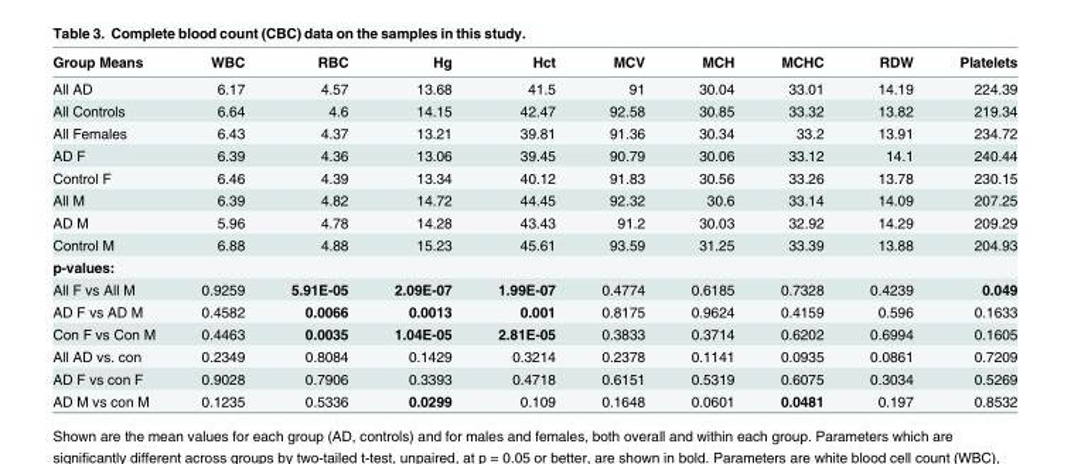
<table><thead><tr><td>Group Means</td><td>WBC</td><td>RBC</td><td>Hg</td><td>Hct</td><td>MCV</td><td>MCH</td><td>MCHC</td><td>RDW</td><td>Platelets</td></tr></thead><tbody><tr><td>All AD</td><td>6.17</td><td>4.57</td><td>13.68</td><td>41.5</td><td>91</td><td>30.04</td><td>33.01</td><td>14.19</td><td>224.39</td></tr><tr><td>All Controls</td><td>6.64</td><td>4.6</td><td>14.15</td><td>42.47</td><td>92.58</td><td>30.85</td><td>33.32</td><td>13.82</td><td>219.34</td></tr><tr><td>All Females</td><td>6.43</td><td>4.37</td><td>13.21</td><td>39.81</td><td>91.36</td><td>30.34</td><td>33.2</td><td>13.91</td><td>234.72</td></tr><tr><td>AD F</td><td>6.39</td><td>4.36</td><td>13.06</td><td>39.45</td><td>90.79</td><td>30.06</td><td>33.12</td><td>14.1</td><td>240.44</td></tr><tr><td>Control F</td><td>6.46</td><td>4.39</td><td>13.34</td><td>40.12</td><td>91.83</td><td>30.56</td><td>33.26</td><td>13.78</td><td>230.15</td></tr><tr><td>All M</td><td>6.39</td><td>4.82</td><td>14.72</td><td>44.45</td><td>92.32</td><td>30.6</td><td>33.14</td><td>14.09</td><td>207.25</td></tr><tr><td>AD M</td><td>5.96</td><td>4.78</td><td>14.28</td><td>43.43</td><td>91.2</td><td>30.03</td><td>32.92</td><td>14.29</td><td>209.29</td></tr><tr><td>Control M</td><td>6.88</td><td>4.88</td><td>15.23</td><td>45.61</td><td>93.59</td><td>31.25</td><td>33.39</td><td>13.88</td><td>204.93</td></tr><tr><td colspan="10">p-values:</td></tr><tr><td>All F vs All M</td><td>0.9259</td><td>5.91E-05</td><td>2.09E-07</td><td>1.99E-07</td><td>0.4774</td><td>0.6185</td><td>0.7328</td><td>0.4239</td><td>0.049</td></tr><tr><td>AD F vs AD M</td><td>0.4582</td><td>0.0066</td><td>0.0013</td><td>0.001</td><td>0.8175</td><td>0.9624</td><td>0.4159</td><td>0.596</td><td>0.1633</td></tr><tr><td>Con F vs Con M</td><td>0.4463</td><td>0.0035</td><td>1.04E-05</td><td>2.81E-05</td><td>0.3833</td><td>0.3714</td><td>0.6202</td><td>0.6994</td><td>0.1605</td></tr><tr><td>All AD vs. con</td><td>0.2349</td><td>0.8084</td><td>0.1429</td><td>0.3214</td><td>0.2378</td><td>0.1141</td><td>0.0935</td><td>0.0861</td><td>0.7209</td></tr><tr><td>AD F vs con F</td><td>0.9028</td><td>0.7906</td><td>0.3393</td><td>0.4718</td><td>0.6151</td><td>0.5319</td><td>0.6075</td><td>0.3034</td><td>0.5269</td></tr><tr><td>AD M vs con M</td><td>0.1235</td><td>0.5336</td><td>0.0299</td><td>0.109</td><td>0.1648</td><td>0.0601</td><td>0.0481</td><td>0.197</td><td>0.8532</td></tr></tbody></table>